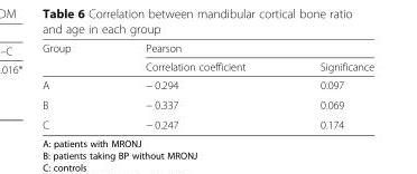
<table><thead><tr><td rowspan="2">Group</td><td colspan="2">Pearson</td></tr><tr><td>Correlation coefficient</td><td>Significance</td></tr></thead><tbody><tr><td>A</td><td>− 0.294</td><td>0.097</td></tr><tr><td>B</td><td>− 0.337</td><td>0.069</td></tr><tr><td>C</td><td>− 0.247</td><td>0.174</td></tr></tbody></table>